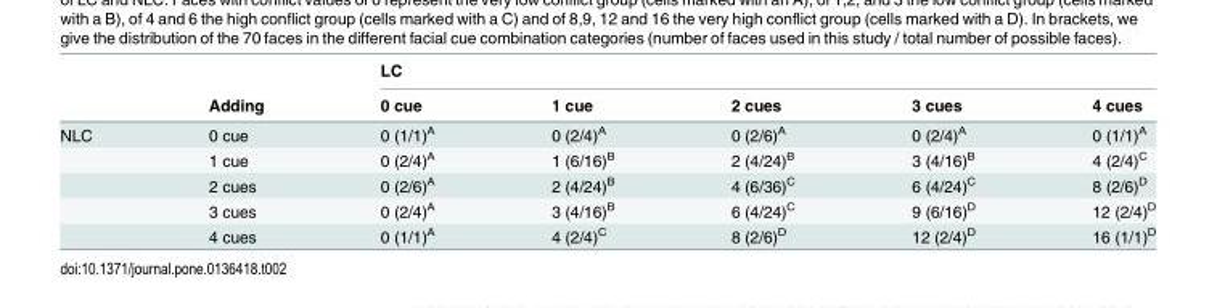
<table><thead><tr><td rowspan="2"></td><td rowspan="2">Adding</td><td colspan="5">LC</td></tr><tr><td>0 cue</td><td>1 cue</td><td>2 cues</td><td>3 cues</td><td>4 cues</td></tr></thead><tbody><tr><td rowspan="5">NLC</td><td>0 cue</td><td>0 (1/1)<sup>A</sup></td><td>0 (2/4)<sup>A</sup></td><td>0 (2/6)<sup>A</sup></td><td>0 (2/4)<sup>A</sup></td><td>0 (1/1)<sup>A</sup></td></tr><tr><td>1 cue</td><td>0 (2/4)<sup>A</sup></td><td>1 (6/16)<sup>B</sup></td><td>2 (4/24)<sup>B</sup></td><td>3 (4/16)<sup>B</sup></td><td>4 (2/4)<sup>C</sup></td></tr><tr><td>2 cues</td><td>0 (2/6)<sup>A</sup></td><td>2 (4/24)<sup>B</sup></td><td>4 (6/36)<sup>C</sup></td><td>6 (4/24)<sup>C</sup></td><td>8 (2/6)<sup>D</sup></td></tr><tr><td>3 cues</td><td>0 (2/4)<sup>A</sup></td><td>3 (4/16)<sup>B</sup></td><td>6 (4/24)<sup>C</sup></td><td>9 (6/16)<sup>D</sup></td><td>12 (2/4)<sup>D</sup></td></tr><tr><td>4 cues</td><td>0 (1/1)<sup>A</sup></td><td>4 (2/4)<sup>C</sup></td><td>8 (2/6)<sup>D</sup></td><td>12 (2/4)<sup>D</sup></td><td>16 (1/1)<sup>D</sup></td></tr></tbody></table>